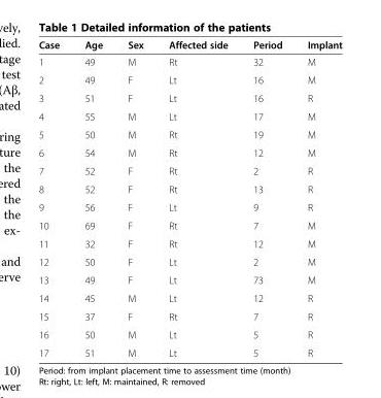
<table><thead><tr><td>Case</td><td>Age</td><td>Sex</td><td>Affected side</td><td>Period</td><td>Implant</td></tr></thead><tbody><tr><td>1</td><td>49</td><td>M</td><td>Rt</td><td>32</td><td>M</td></tr><tr><td>2</td><td>49</td><td>F</td><td>Lt</td><td>16</td><td>M</td></tr><tr><td>3</td><td>51</td><td>F</td><td>Lt</td><td>16</td><td>R</td></tr><tr><td>4</td><td>55</td><td>M</td><td>Lt</td><td>17</td><td>M</td></tr><tr><td>5</td><td>50</td><td>M</td><td>Rt</td><td>19</td><td>M</td></tr><tr><td>6</td><td>54</td><td>M</td><td>Rt</td><td>12</td><td>M</td></tr><tr><td>7</td><td>52</td><td>F</td><td>Rt</td><td>2</td><td>R</td></tr><tr><td>8</td><td>52</td><td>F</td><td>Rt</td><td>13</td><td>R</td></tr><tr><td>9</td><td>56</td><td>F</td><td>Lt</td><td>9</td><td>R</td></tr><tr><td>10</td><td>69</td><td>F</td><td>Rt</td><td>7</td><td>M</td></tr><tr><td>11</td><td>32</td><td>F</td><td>Rt</td><td>12</td><td>M</td></tr><tr><td>12</td><td>50</td><td>F</td><td>Lt</td><td>2</td><td>M</td></tr><tr><td>13</td><td>49</td><td>F</td><td>Lt</td><td>73</td><td>M</td></tr><tr><td>14</td><td>45</td><td>M</td><td>Lt</td><td>12</td><td>R</td></tr><tr><td>15</td><td>37</td><td>F</td><td>Rt</td><td>7</td><td>R</td></tr><tr><td>16</td><td>50</td><td>M</td><td>Lt</td><td>5</td><td>R</td></tr><tr><td>17</td><td>51</td><td>M</td><td>Lt</td><td>5</td><td>R</td></tr></tbody></table>